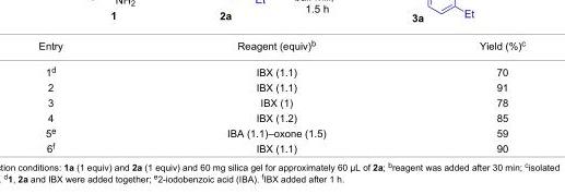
<table><tbody><tr><td>Entry</td><td>Reagent (equiv)<sup>b</sup></td><td>Yield (%)<sup>c</sup></td></tr><tr><td>1<sup>d</sup></td><td>IBX (1.1)</td><td>70</td></tr><tr><td>2</td><td>IBX (1.1)</td><td>91</td></tr><tr><td>3</td><td>IBX (1)</td><td>78</td></tr><tr><td>4</td><td>IBX (1.2)</td><td>85</td></tr><tr><td>5<sup>e</sup></td><td>IBA (1.1)–oxone (1.5)</td><td>59</td></tr><tr><td>6<sup>f</sup></td><td>IBX (1.1)</td><td>90</td></tr></tbody></table>